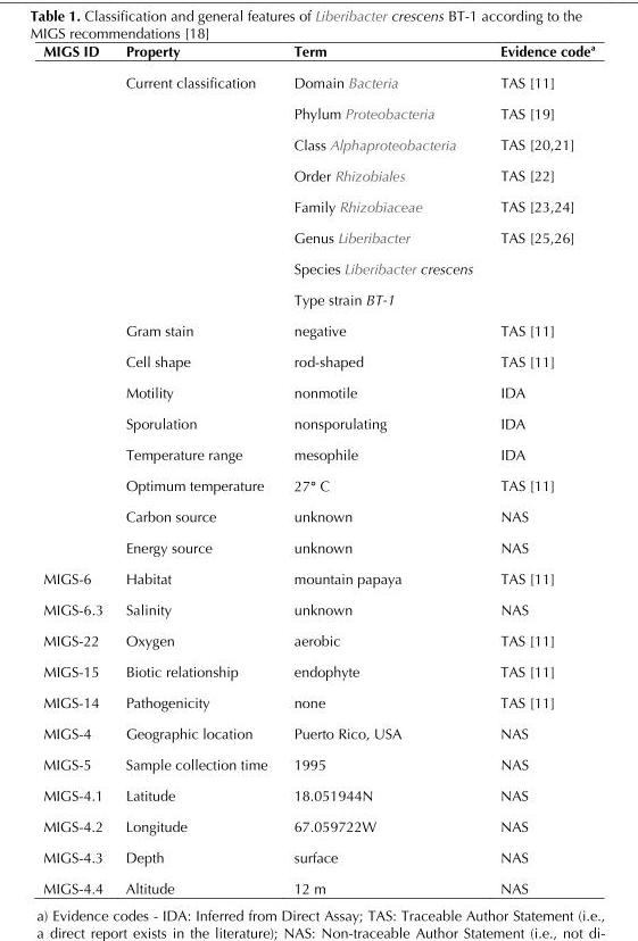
<table><thead><tr><td>MIGS ID</td><td>Property</td><td>Term</td><td>Evidence code<sup>a</sup></td></tr></thead><tbody><tr><td></td><td>Current classification</td><td>Domain Bacteria</td><td>TAS [11]</td></tr><tr><td></td><td></td><td>Phylum Proteobacteria</td><td>TAS [19]</td></tr><tr><td></td><td></td><td>Class Alphaproteobacteria</td><td>TAS [20,21]</td></tr><tr><td></td><td></td><td>Order Rhizobiales</td><td>TAS [22]</td></tr><tr><td></td><td></td><td>Family Rhizobiaceae</td><td>TAS [23,24]</td></tr><tr><td></td><td></td><td>Genus Liberibacter</td><td>TAS [25,26]</td></tr><tr><td></td><td></td><td>Species Liberibacter crescens</td><td></td></tr><tr><td></td><td></td><td>Type strain BT-1</td><td></td></tr><tr><td></td><td>Gram stain</td><td>negative</td><td>TAS [11]</td></tr><tr><td></td><td>Cell shape</td><td>rod-shaped</td><td>TAS [11]</td></tr><tr><td></td><td>Motility</td><td>nonmotile</td><td>IDA</td></tr><tr><td></td><td>Sporulation</td><td>nonsporulating</td><td>IDA</td></tr><tr><td></td><td>Temperature range</td><td>mesophile</td><td>IDA</td></tr><tr><td></td><td>Optimum temperature</td><td>27° C</td><td>TAS [11]</td></tr><tr><td></td><td>Carbon source</td><td>unknown</td><td>NAS</td></tr><tr><td></td><td>Energy source</td><td>unknown</td><td>NAS</td></tr><tr><td>MIGS-6</td><td>Habitat</td><td>mountain papaya</td><td>TAS [11]</td></tr><tr><td>MIGS-6.3</td><td>Salinity</td><td>unknown</td><td>NAS</td></tr><tr><td>MIGS-22</td><td>Oxygen</td><td>aerobic</td><td>TAS [11]</td></tr><tr><td>MIGS-15</td><td>Biotic relationship</td><td>endophyte</td><td>TAS [11]</td></tr><tr><td>MIGS-14</td><td>Pathogenicity</td><td>none</td><td>TAS [11]</td></tr><tr><td>MIGS-4</td><td>Geographic location</td><td>Puerto Rico, USA</td><td>NAS</td></tr><tr><td>MIGS-5</td><td>Sample collection time</td><td>1995</td><td>NAS</td></tr><tr><td>MIGS-4.1</td><td>Latitude</td><td>18.051944N</td><td>NAS</td></tr><tr><td>MIGS-4.2</td><td>Longitude</td><td>67.059722W</td><td>NAS</td></tr><tr><td>MIGS-4.3</td><td>Depth</td><td>surface</td><td>NAS</td></tr><tr><td>MIGS-4.4</td><td>Altitude</td><td>12 m</td><td>NAS</td></tr></tbody></table>